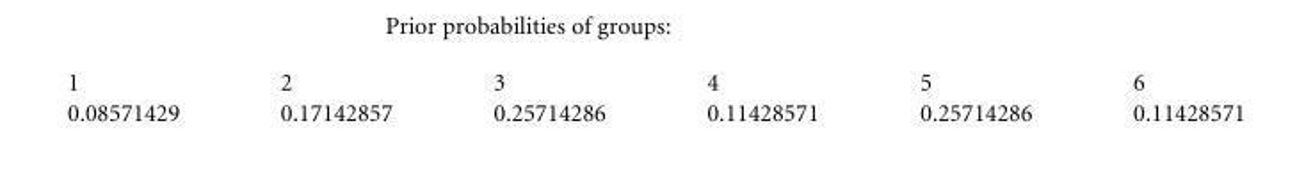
<table><tbody><tr><td>1</td><td>2</td><td>3</td><td>4</td><td>5</td><td>6</td></tr><tr><td>0.08571429</td><td>0.17142857</td><td>0.25714286</td><td>0.11428571</td><td>0.25714286</td><td>0.11428571</td></tr></tbody></table>